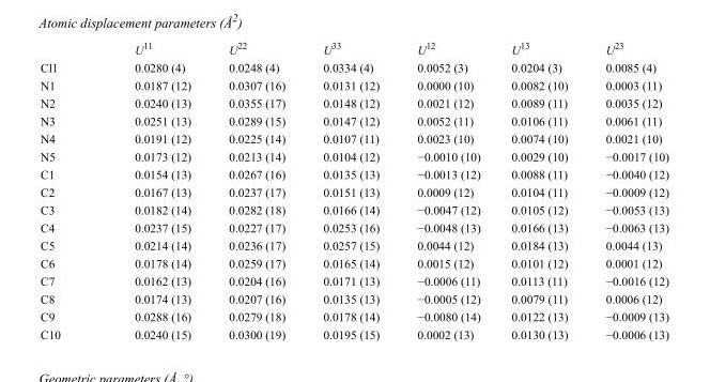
<table><thead><tr><td></td><td>U<sup>11</sup></td><td>U<sup>22</sup></td><td>U<sup>33</sup></td><td>U<sup>12</sup></td><td>U<sup>13</sup></td><td>U<sup>23</sup></td></tr></thead><tbody><tr><td>Cl1</td><td>0.0280 (4)</td><td>0.0248 (4)</td><td>0.0334 (4)</td><td>0.0052 (3)</td><td>0.0204 (3)</td><td>0.0085 (4)</td></tr><tr><td>N1</td><td>0.0187 (12)</td><td>0.0307 (16)</td><td>0.0131 (12)</td><td>0.0000 (10)</td><td>0.0082 (10)</td><td>0.0003 (11)</td></tr><tr><td>N2</td><td>0.0240 (13)</td><td>0.0355 (17)</td><td>0.0148 (12)</td><td>0.0021 (12)</td><td>0.0089 (11)</td><td>0.0035 (12)</td></tr><tr><td>N3</td><td>0.0251 (13)</td><td>0.0289 (15)</td><td>0.0147 (12)</td><td>0.0052 (11)</td><td>0.0106 (11)</td><td>0.0061 (11)</td></tr><tr><td>N4</td><td>0.0191 (12)</td><td>0.0225 (14)</td><td>0.0107 (11)</td><td>0.0023 (10)</td><td>0.0074 (10)</td><td>0.0021 (10)</td></tr><tr><td>N5</td><td>0.0173 (12)</td><td>0.0213 (14)</td><td>0.0104 (12)</td><td>−0.0010 (10)</td><td>0.0029 (10)</td><td>−0.0017 (10)</td></tr><tr><td>C1</td><td>0.0154 (13)</td><td>0.0267 (16)</td><td>0.0135 (13)</td><td>−0.0013 (12)</td><td>0.0088 (11)</td><td>−0.0040 (12)</td></tr><tr><td>C2</td><td>0.0167 (13)</td><td>0.0237 (17)</td><td>0.0151 (13)</td><td>0.0009 (12)</td><td>0.0104 (11)</td><td>−0.0009 (12)</td></tr><tr><td>C3</td><td>0.0182 (14)</td><td>0.0282 (18)</td><td>0.0166 (14)</td><td>−0.0047 (12)</td><td>0.0105 (12)</td><td>−0.0053 (13)</td></tr><tr><td>C4</td><td>0.0237 (15)</td><td>0.0227 (17)</td><td>0.0253 (16)</td><td>−0.0048 (13)</td><td>0.0166 (13)</td><td>−0.0063 (13)</td></tr><tr><td>C5</td><td>0.0214 (14)</td><td>0.0236 (17)</td><td>0.0257 (15)</td><td>0.0044 (12)</td><td>0.0184 (13)</td><td>0.0044 (13)</td></tr><tr><td>C6</td><td>0.0178 (14)</td><td>0.0259 (17)</td><td>0.0165 (14)</td><td>0.0015 (12)</td><td>0.0101 (12)</td><td>0.0001 (12)</td></tr><tr><td>C7</td><td>0.0162 (13)</td><td>0.0204 (16)</td><td>0.0171 (13)</td><td>−0.0006 (11)</td><td>0.0113 (11)</td><td>−0.0016 (12)</td></tr><tr><td>C8</td><td>0.0174 (13)</td><td>0.0207 (16)</td><td>0.0135 (13)</td><td>−0.0005 (12)</td><td>0.0079 (11)</td><td>0.0006 (12)</td></tr><tr><td>C9</td><td>0.0288 (16)</td><td>0.0279 (18)</td><td>0.0178 (14)</td><td>−0.0080 (14)</td><td>0.0122 (13)</td><td>−0.0009 (13)</td></tr><tr><td>C10</td><td>0.0240 (15)</td><td>0.0300 (19)</td><td>0.0195 (15)</td><td>0.0002 (13)</td><td>0.0130 (13)</td><td>−0.0006 (13)</td></tr></tbody></table>